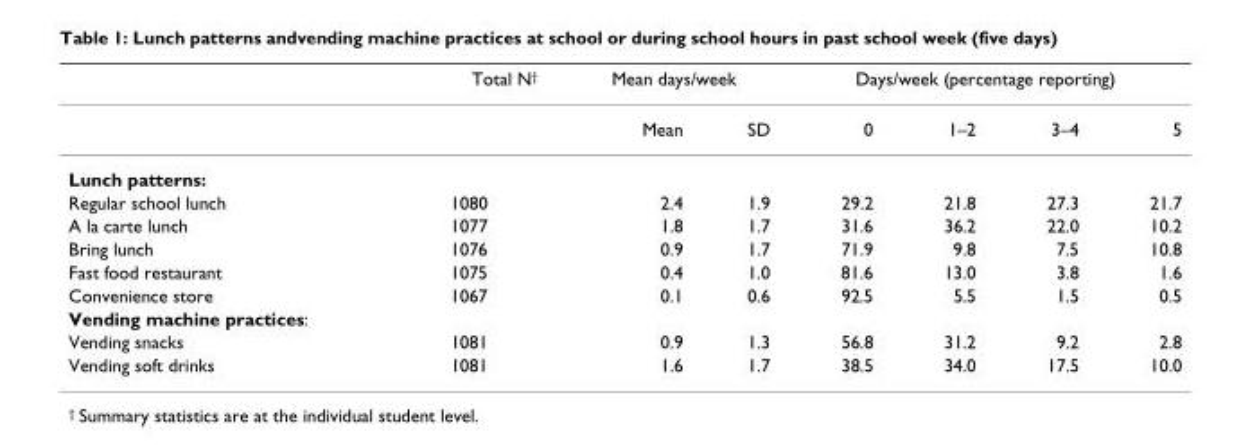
<table><thead><tr><td rowspan="2"></td><td rowspan="2">Total N<sup>†</sup></td><td colspan="2">Mean days/week</td><td colspan="4">Days/week (percentage reporting)</td></tr><tr><td>Mean</td><td>SD</td><td>0</td><td>1–2</td><td>3–4</td><td>5</td></tr></thead><tbody><tr><td colspan="8">Lunch patterns:</td></tr><tr><td>Regular school lunch</td><td>1080</td><td>2.4</td><td>1.9</td><td>29.2</td><td>21.8</td><td>27.3</td><td>21.7</td></tr><tr><td>A la carte lunch</td><td>1077</td><td>1.8</td><td>1.7</td><td>31.6</td><td>36.2</td><td>22.0</td><td>10.2</td></tr><tr><td>Bring lunch</td><td>1076</td><td>0.9</td><td>1.7</td><td>71.9</td><td>9.8</td><td>7.5</td><td>10.8</td></tr><tr><td>Fast food restaurant</td><td>1075</td><td>0.4</td><td>1.0</td><td>81.6</td><td>13.0</td><td>3.8</td><td>1.6</td></tr><tr><td>Convenience store</td><td>1067</td><td>0.1</td><td>0.6</td><td>92.5</td><td>5.5</td><td>1.5</td><td>0.5</td></tr><tr><td colspan="8">Vending machine practices:</td></tr><tr><td>Vending snacks</td><td>1081</td><td>0.9</td><td>1.3</td><td>56.8</td><td>31.2</td><td>9.2</td><td>2.8</td></tr><tr><td>Vending soft drinks</td><td>1081</td><td>1.6</td><td>1.7</td><td>38.5</td><td>34.0</td><td>17.5</td><td>10.0</td></tr></tbody></table>